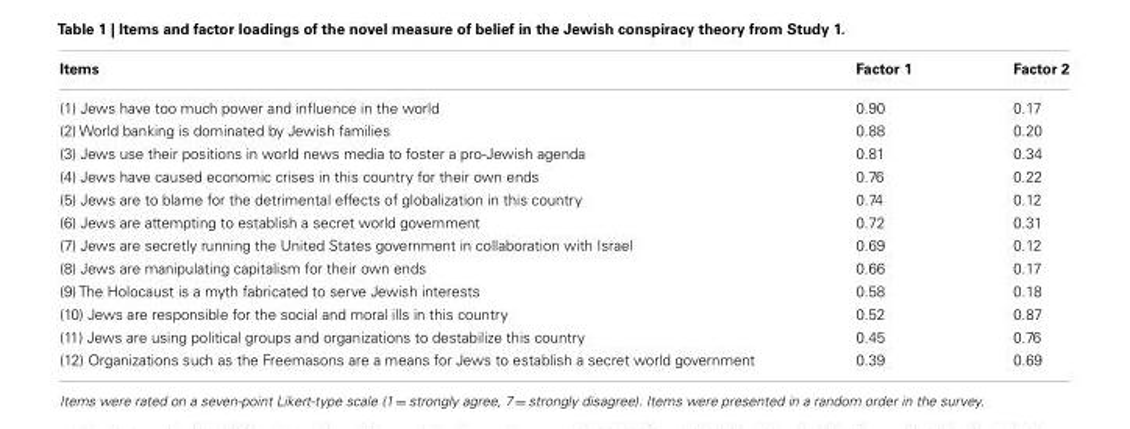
<table><thead><tr><td>Items</td><td>Factor 1</td><td>Factor 2</td></tr></thead><tbody><tr><td>(1) Jews have too much power and influence in the world</td><td>0.90</td><td>0.17</td></tr><tr><td>(2) World banking is dominated by Jewish families</td><td>0.88</td><td>0.20</td></tr><tr><td>(3) Jews use their positions in world news media to foster a pro-Jewish agenda</td><td>0.81</td><td>0.34</td></tr><tr><td>(4) Jews have caused economic crises in this country for their own ends</td><td>0.76</td><td>0.22</td></tr><tr><td>(5) Jews are to blame for the detrimental effects of globalization in this country</td><td>0.74</td><td>0.12</td></tr><tr><td>(6) Jews are attempting to establish a secret world government</td><td>0.72</td><td>0.31</td></tr><tr><td>(7) Jews are secretly running the United States government in collaboration with Israel</td><td>0.69</td><td>0.12</td></tr><tr><td>(8) Jews are manipulating capitalism for their own ends</td><td>0.66</td><td>0.17</td></tr><tr><td>(9) The Holocaust is a myth fabricated to serve Jewish interests</td><td>0.58</td><td>0.18</td></tr><tr><td>(10) Jews are responsible for the social and moral ills in this country</td><td>0.52</td><td>0.87</td></tr><tr><td>(11) Jews are using political groups and organizations to destabilize this country</td><td>0.45</td><td>0.76</td></tr><tr><td>(12) Organizations such as the Freemasons are a means for Jews to establish a secret world government</td><td>0.39</td><td>0.69</td></tr></tbody></table>